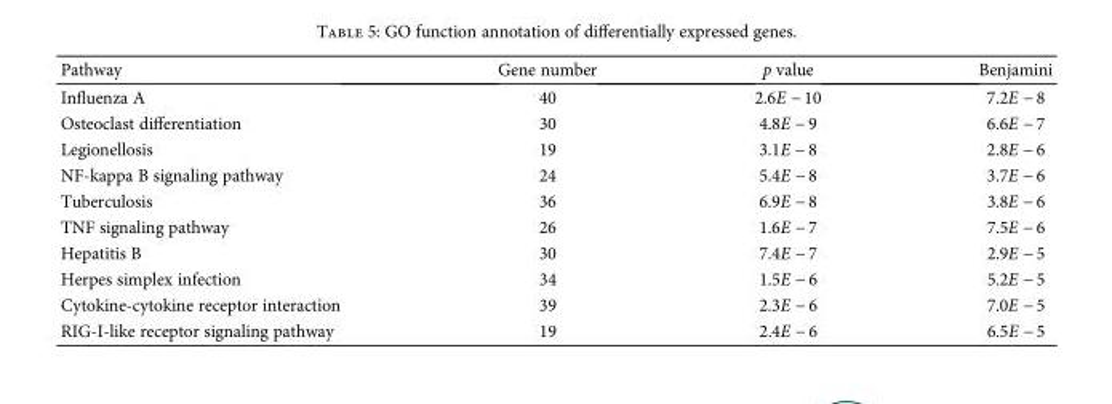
<table><thead><tr><td>Pathway</td><td>Gene number</td><td>p value</td><td>Benjamini</td></tr></thead><tbody><tr><td>Influenza A</td><td>40</td><td>2.6E − 10</td><td>7.2E − 8</td></tr><tr><td>Osteoclast differentiation</td><td>30</td><td>4.8E − 9</td><td>6.6E − 7</td></tr><tr><td>Legionellosis</td><td>19</td><td>3.1E − 8</td><td>2.8E − 6</td></tr><tr><td>NF-kappa B signaling pathway</td><td>24</td><td>5.4E − 8</td><td>3.7E − 6</td></tr><tr><td>Tuberculosis</td><td>36</td><td>6.9E − 8</td><td>3.8E − 6</td></tr><tr><td>TNF signaling pathway</td><td>26</td><td>1.6E − 7</td><td>7.5E − 6</td></tr><tr><td>Hepatitis B</td><td>30</td><td>7.4E − 7</td><td>2.9E − 5</td></tr><tr><td>Herpes simplex infection</td><td>34</td><td>1.5E − 6</td><td>5.2E − 5</td></tr><tr><td>Cytokine-cytokine receptor interaction</td><td>39</td><td>2.3E − 6</td><td>7.0E − 5</td></tr><tr><td>RIG-I-like receptor signaling pathway</td><td>19</td><td>2.4E − 6</td><td>6.5E − 5</td></tr></tbody></table>